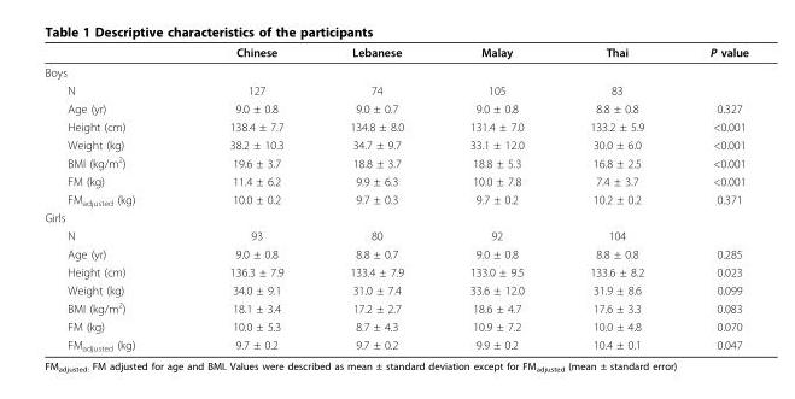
<table><thead><tr><td></td><td>Chinese</td><td>Lebanese</td><td>Malay</td><td>Thai</td><td>P value</td></tr></thead><tbody><tr><td colspan="6">Boys</td></tr><tr><td>N</td><td>127</td><td>74</td><td>105</td><td>83</td><td></td></tr><tr><td>Age (yr)</td><td>9.0 ± 0.8</td><td>9.0 ± 0.7</td><td>9.0 ± 0.8</td><td>8.8 ± 0.8</td><td>0.327</td></tr><tr><td>Height (cm)</td><td>138.4 ± 7.7</td><td>134.8 ± 8.0</td><td>131.4 ± 7.0</td><td>133.2 ± 5.9</td><td>&lt;0.001</td></tr><tr><td>Weight (kg)</td><td>38.2 ± 10.3</td><td>34.7 ± 9.7</td><td>33.1 ± 12.0</td><td>30.0 ± 6.0</td><td>&lt;0.001</td></tr><tr><td>BMI (kg/m<sup>2</sup>)</td><td>19.6 ± 3.7</td><td>18.8 ± 3.7</td><td>18.8 ± 5.3</td><td>16.8 ± 2.5</td><td>&lt;0.001</td></tr><tr><td>FM (kg)</td><td>11.4 ± 6.2</td><td>9.9 ± 6.3</td><td>10.0 ± 7.8</td><td>7.4 ± 3.7</td><td>&lt;0.001</td></tr><tr><td>FM<sub>adjusted</sub> (kg)</td><td>10.0 ± 0.2</td><td>9.7 ± 0.3</td><td>9.7 ± 0.2</td><td>10.2 ± 0.2</td><td>0.371</td></tr><tr><td colspan="6">Girls</td></tr><tr><td>N</td><td>93</td><td>80</td><td>92</td><td>104</td><td></td></tr><tr><td>Age (yr)</td><td>9.0 ± 0.8</td><td>8.8 ± 0.7</td><td>9.0 ± 0.8</td><td>8.8 ± 0.8</td><td>0.285</td></tr><tr><td>Height (cm)</td><td>136.3 ± 7.9</td><td>133.4 ± 7.9</td><td>133.0 ± 9.5</td><td>133.6 ± 8.2</td><td>0.023</td></tr><tr><td>Weight (kg)</td><td>34.0 ± 9.1</td><td>31.0 ± 7.4</td><td>33.6 ± 12.0</td><td>31.9 ± 8.6</td><td>0.099</td></tr><tr><td>BMI (kg/m<sup>2</sup>)</td><td>18.1 ± 3.4</td><td>17.2 ± 2.7</td><td>18.6 ± 4.7</td><td>17.6 ± 3.3</td><td>0.083</td></tr><tr><td>FM (kg)</td><td>10.0 ± 5.3</td><td>8.7 ± 4.3</td><td>10.9 ± 7.2</td><td>10.0 ± 4.8</td><td>0.070</td></tr><tr><td>FM<sub>adjusted</sub> (kg)</td><td>9.7 ± 0.2</td><td>9.7 ± 0.2</td><td>9.9 ± 0.2</td><td>10.4 ± 0.1</td><td>0.047</td></tr></tbody></table>